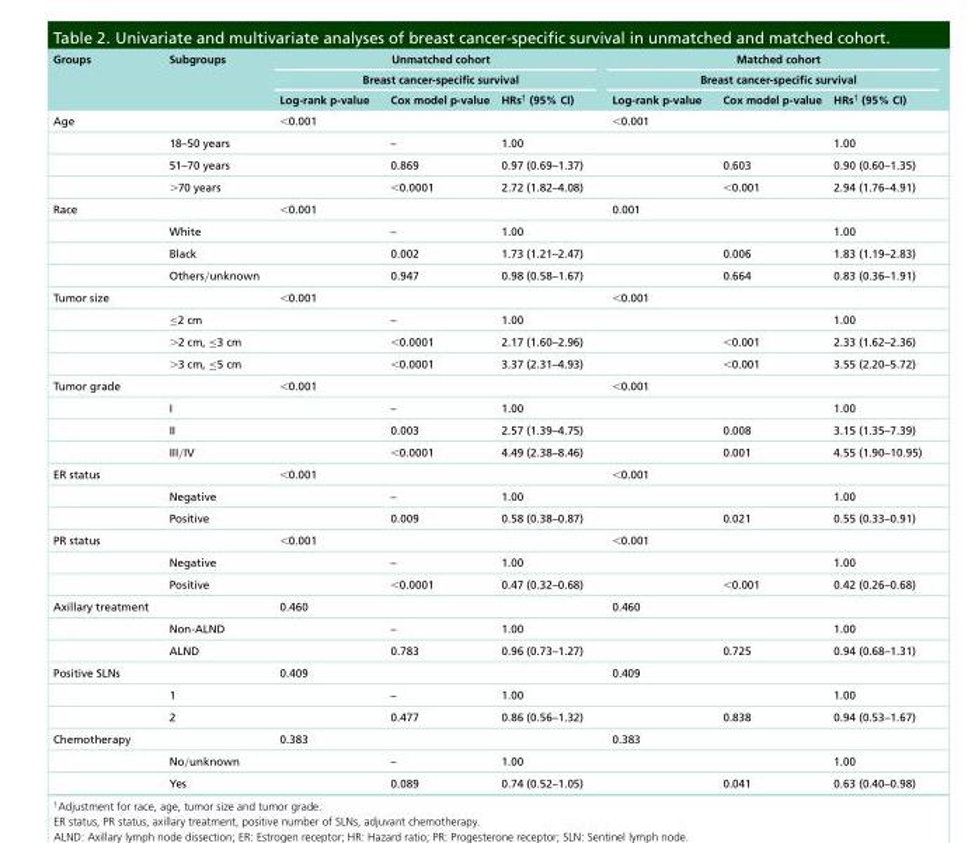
<table><thead><tr><td rowspan="3">Groups</td><td rowspan="3">Subgroups</td><td rowspan="2" colspan="3">Unmatched cohort Breast cancer-specific survival</td><td rowspan="2" colspan="3">Matched cohort Breast cancer-specific survival</td></tr><tr></tr><tr><td>Log-rank p-value</td><td>Cox model p-value</td><td>HRs<sup>†</sup> (95% CI)</td><td>Log-rank p-value</td><td>Cox model p-value</td><td>HRs<sup>†</sup> (95% CI)</td></tr></thead><tbody><tr><td rowspan="4">Age</td><td></td><td>&lt;0.001</td><td></td><td></td><td>&lt;0.001</td><td></td><td></td></tr><tr><td>18–50 years</td><td></td><td>–</td><td>1.00</td><td></td><td></td><td>1.00</td></tr><tr><td>51–70 years</td><td></td><td>0.869</td><td>0.97 (0.69–1.37)</td><td></td><td>0.603</td><td>0.90 (0.60–1.35)</td></tr><tr><td>&gt;70 years</td><td></td><td>&lt;0.0001</td><td>2.72 (1.82–4.08)</td><td></td><td>&lt;0.001</td><td>2.94 (1.76–4.91)</td></tr><tr><td rowspan="4">Race</td><td></td><td>&lt;0.001</td><td></td><td></td><td>0.001</td><td></td><td></td></tr><tr><td>White</td><td></td><td>–</td><td>1.00</td><td></td><td></td><td>1.00</td></tr><tr><td>Black</td><td></td><td>0.002</td><td>1.73 (1.21–2.47)</td><td></td><td>0.006</td><td>1.83 (1.19–2.83)</td></tr><tr><td>Others/unknown</td><td></td><td>0.947</td><td>0.98 (0.58–1.67)</td><td></td><td>0.664</td><td>0.83 (0.36–1.91)</td></tr><tr><td rowspan="4">Tumor size</td><td></td><td>&lt;0.001</td><td></td><td></td><td>&lt;0.001</td><td></td><td></td></tr><tr><td>≤2 cm</td><td></td><td>–</td><td>1.00</td><td></td><td></td><td>1.00</td></tr><tr><td>&gt;2 cm, ≤3 cm</td><td></td><td>&lt;0.0001</td><td>2.17 (1.60–2.96)</td><td></td><td>&lt;0.001</td><td>2.33 (1.62–2.36)</td></tr><tr><td>&gt;3 cm, ≤5 cm</td><td></td><td>&lt;0.0001</td><td>3.37 (2.31–4.93)</td><td></td><td>&lt;0.001</td><td>3.55 (2.20–5.72)</td></tr><tr><td rowspan="4">Tumor grade</td><td></td><td>&lt;0.001</td><td></td><td></td><td>&lt;0.001</td><td></td><td></td></tr><tr><td>I</td><td></td><td>–</td><td>1.00</td><td></td><td></td><td>1.00</td></tr><tr><td>II</td><td></td><td>0.003</td><td>2.57 (1.39–4.75)</td><td></td><td>0.008</td><td>3.15 (1.35–7.39)</td></tr><tr><td>III/IV</td><td></td><td>&lt;0.0001</td><td>4.49 (2.38–8.46)</td><td></td><td>0.001</td><td>4.55 (1.90–10.95)</td></tr><tr><td rowspan="3">ER status</td><td></td><td>&lt;0.001</td><td></td><td></td><td>&lt;0.001</td><td></td><td></td></tr><tr><td>Negative</td><td></td><td>–</td><td>1.00</td><td></td><td></td><td>1.00</td></tr><tr><td>Positive</td><td></td><td>0.009</td><td>0.58 (0.38–0.87)</td><td></td><td>0.021</td><td>0.55 (0.33–0.91)</td></tr><tr><td rowspan="3">PR status</td><td></td><td>&lt;0.001</td><td></td><td></td><td>&lt;0.001</td><td></td><td></td></tr><tr><td>Negative</td><td></td><td>–</td><td>1.00</td><td></td><td></td><td>1.00</td></tr><tr><td>Positive</td><td></td><td>&lt;0.0001</td><td>0.47 (0.32–0.68)</td><td></td><td>&lt;0.001</td><td>0.42 (0.26–0.68)</td></tr><tr><td rowspan="3">Axillary treatment</td><td></td><td>0.460</td><td></td><td></td><td>0.460</td><td></td><td></td></tr><tr><td>Non-ALND</td><td></td><td>–</td><td>1.00</td><td></td><td></td><td>1.00</td></tr><tr><td>ALND</td><td></td><td>0.783</td><td>0.96 (0.73–1.27)</td><td></td><td>0.725</td><td>0.94 (0.68–1.31)</td></tr><tr><td rowspan="3">Positive SLNs</td><td></td><td>0.409</td><td></td><td></td><td>0.409</td><td></td><td></td></tr><tr><td>1</td><td></td><td>–</td><td>1.00</td><td></td><td></td><td>1.00</td></tr><tr><td>2</td><td></td><td>0.477</td><td>0.86 (0.56–1.32)</td><td></td><td>0.838</td><td>0.94 (0.53–1.67)</td></tr><tr><td rowspan="3">Chemotherapy</td><td></td><td>0.383</td><td></td><td></td><td>0.383</td><td></td><td></td></tr><tr><td>No/unknown</td><td></td><td>–</td><td>1.00</td><td></td><td></td><td>1.00</td></tr><tr><td>Yes</td><td></td><td>0.089</td><td>0.74 (0.52–1.05)</td><td></td><td>0.041</td><td>0.63 (0.40–0.98)</td></tr></tbody></table>